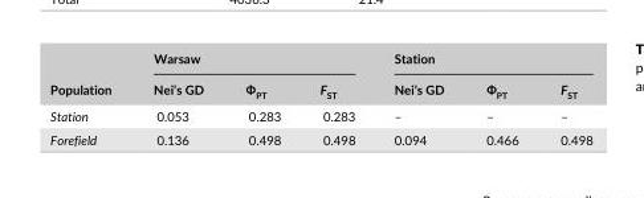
<table><thead><tr><td rowspan="2">Population</td><td colspan="3">Warsaw</td><td colspan="3">Station</td></tr><tr><td>Nei’s GD</td><td>Ф<sub>PT</sub></td><td>F<sub>ST</sub></td><td>Nei’s GD</td><td>Ф<sub>PT</sub></td><td>F<sub>ST</sub></td></tr></thead><tbody><tr><td>Station</td><td>0.053</td><td>0.283</td><td>0.283</td><td>–</td><td>–</td><td>–</td></tr><tr><td>Forefield</td><td>0.136</td><td>0.498</td><td>0.498</td><td>0.094</td><td>0.466</td><td>0.498</td></tr></tbody></table>